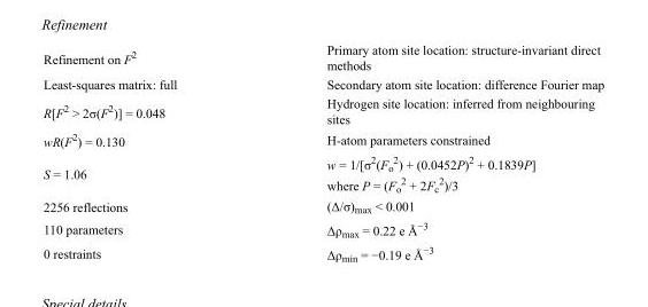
<table><tbody><tr><td>Refinement on F<sup>2</sup></td><td>Primary atom site location: structure-invariant direct methods</td></tr><tr><td>Least-squares matrix: full</td><td>Secondary atom site location: difference Fourier map</td></tr><tr><td>R[F<sup>2</sup> &gt; 2σ(F<sup>2</sup>)] = 0.048</td><td>Hydrogen site location: inferred from neighbouring sites</td></tr><tr><td>wR(F<sup>2</sup>) = 0.130</td><td>H-atom parameters constrained</td></tr><tr><td>S = 1.06</td><td>w = 1/[σ<sup>2</sup>(F<sub>o</sub> <sup>2</sup>) + (0.0452P)<sup>2</sup> + 0.1839P] where P = (F<sub>o</sub> <sup>2</sup> + 2F<sub>c</sub> <sup>2</sup>)/3</td></tr><tr><td>2256 reflections</td><td>(Δ/σ)<sub>max</sub> &lt; 0.001</td></tr><tr><td>110 parameters</td><td>Δρ<sub>max</sub> = 0.22 e Å<sup>−3</sup></td></tr><tr><td>0 restraints</td><td>Δρ<sub>min</sub> = −0.19 e Å<sup>−3</sup></td></tr></tbody></table>